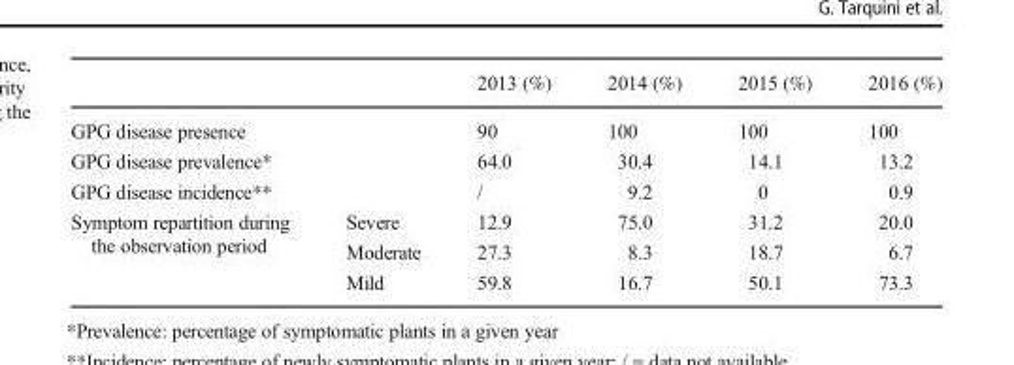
<table><thead><tr><td></td><td></td><td>2013 (%)</td><td>2014 (%)</td><td>2015 (%)</td><td>2016 (%)</td></tr></thead><tbody><tr><td colspan="2">GPG disease presence</td><td>90</td><td>100</td><td>100</td><td>100</td></tr><tr><td colspan="2">GPG disease prevalence*</td><td>64.0</td><td>30.4</td><td>14.1</td><td>13.2</td></tr><tr><td colspan="2">GPG disease incidence**</td><td>/</td><td>9.2</td><td>0</td><td>0.9</td></tr><tr><td rowspan="3">Symptom repartition during the observation period</td><td>Severe</td><td>12.9</td><td>75.0</td><td>31.2</td><td>20.0</td></tr><tr><td>Moderate</td><td>27.3</td><td>8.3</td><td>18.7</td><td>6.7</td></tr><tr><td>Mild</td><td>59.8</td><td>16.7</td><td>50.1</td><td>73.3</td></tr></tbody></table>